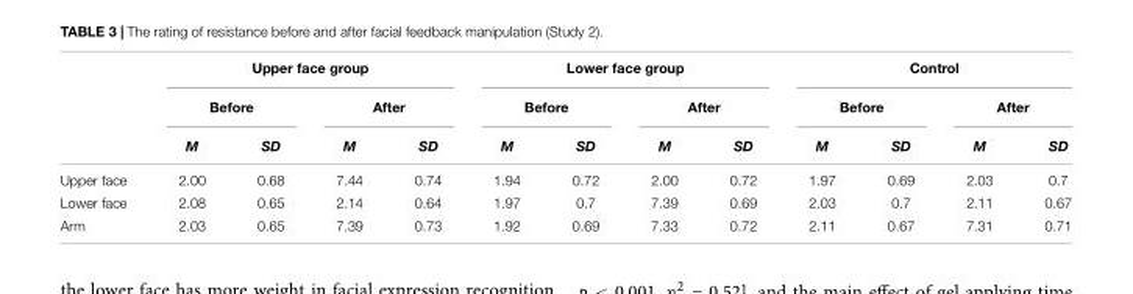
<table><thead><tr><td rowspan="3"></td><td colspan="4">Upper face group</td><td colspan="4">Lower face group</td><td colspan="4">Control</td></tr><tr><td colspan="2">Before</td><td colspan="2">After</td><td colspan="2">Before</td><td colspan="2">After</td><td colspan="2">Before</td><td colspan="2">After</td></tr><tr><td>M</td><td>SD</td><td>M</td><td>SD</td><td>M</td><td>SD</td><td>M</td><td>SD</td><td>M</td><td>SD</td><td>M</td><td>SD</td></tr></thead><tbody><tr><td>Upper face</td><td>2.00</td><td>0.68</td><td>7.44</td><td>0.74</td><td>1.94</td><td>0.72</td><td>2.00</td><td>0.72</td><td>1.97</td><td>0.69</td><td>2.03</td><td>0.7</td></tr><tr><td>Lower face</td><td>2.08</td><td>0.65</td><td>2.14</td><td>0.64</td><td>1.97</td><td>0.7</td><td>7.39</td><td>0.69</td><td>2.03</td><td>0.7</td><td>2.11</td><td>0.67</td></tr><tr><td>Arm</td><td>2.03</td><td>0.65</td><td>7.39</td><td>0.73</td><td>1.92</td><td>0.69</td><td>7.33</td><td>0.72</td><td>2.11</td><td>0.67</td><td>7.31</td><td>0.71</td></tr></tbody></table>